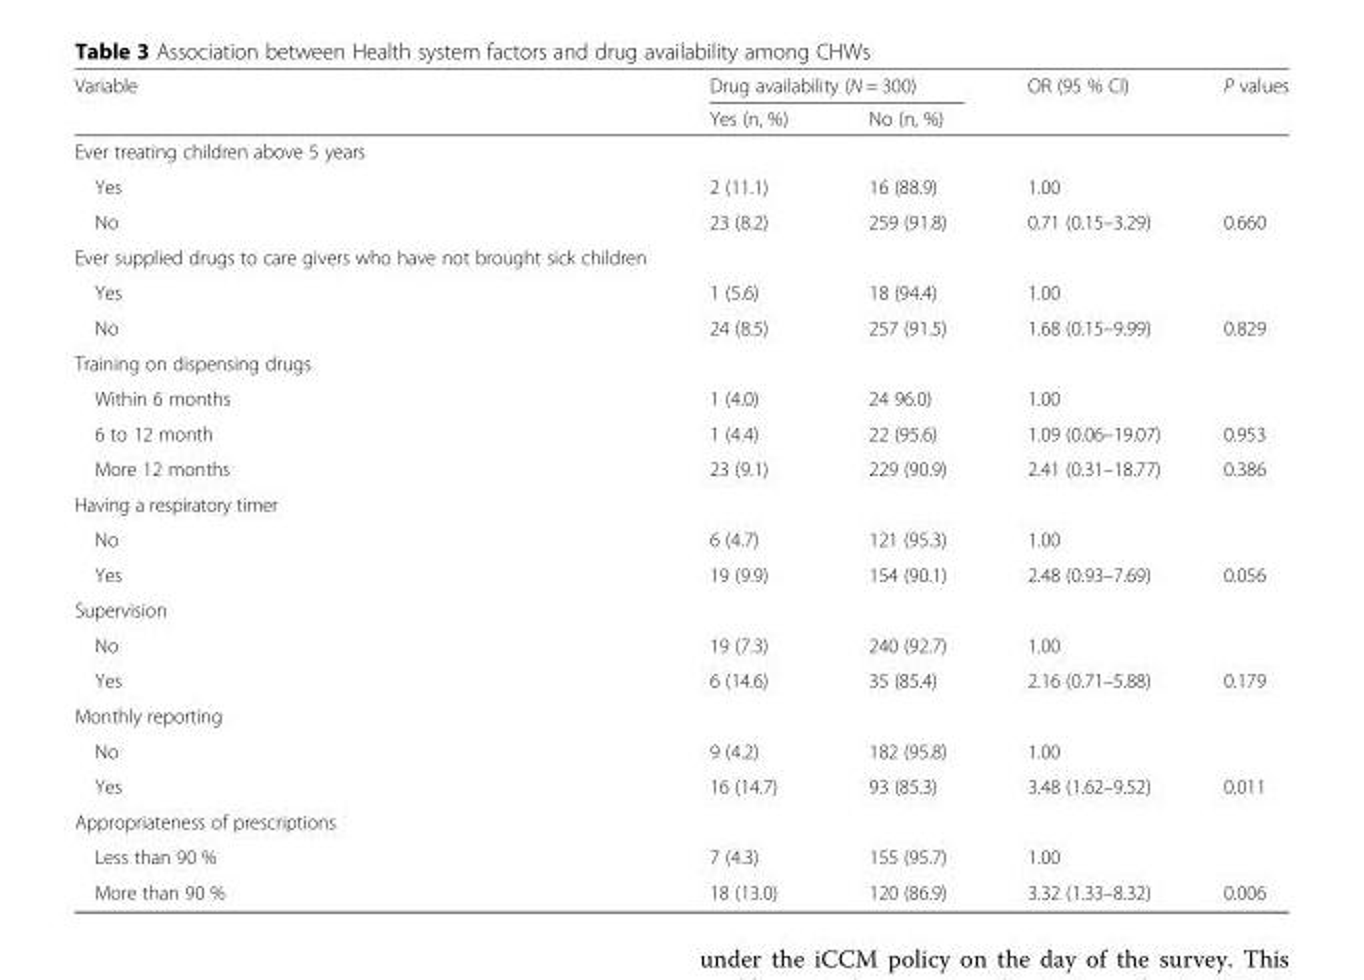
<table><thead><tr><td rowspan="2">Variable</td><td colspan="2">Drug availability (N = 300)</td><td rowspan="2">OR (95 % CI)</td><td rowspan="2">P values</td></tr><tr><td>Yes (n, %)</td><td>No (n, %)</td></tr></thead><tbody><tr><td colspan="5">Ever treating children above 5 years</td></tr><tr><td>Yes</td><td>2 (11.1)</td><td>16 (88.9)</td><td>1.00</td><td></td></tr><tr><td>No</td><td>23 (8.2)</td><td>259 (91.8)</td><td>0.71 (0.15–3.29)</td><td>0.660</td></tr><tr><td colspan="5">Ever supplied drugs to care givers who have not brought sick children</td></tr><tr><td>Yes</td><td>1 (5.6)</td><td>18 (94.4)</td><td>1.00</td><td></td></tr><tr><td>No</td><td>24 (8.5)</td><td>257 (91.5)</td><td>1.68 (0.15–9.99)</td><td>0.829</td></tr><tr><td colspan="5">Training on dispensing drugs</td></tr><tr><td>Within 6 months</td><td>1 (4.0)</td><td>24 96.0)</td><td>1.00</td><td></td></tr><tr><td>6 to 12 month</td><td>1 (4.4)</td><td>22 (95.6)</td><td>1.09 (0.06–19.07)</td><td>0.953</td></tr><tr><td>More 12 months</td><td>23 (9.1)</td><td>229 (90.9)</td><td>2.41 (0.31–18.77)</td><td>0.386</td></tr><tr><td colspan="5">Having a respiratory timer</td></tr><tr><td>No</td><td>6 (4.7)</td><td>121 (95.3)</td><td>1.00</td><td></td></tr><tr><td>Yes</td><td>19 (9.9)</td><td>154 (90.1)</td><td>2.48 (0.93–7.69)</td><td>0.056</td></tr><tr><td colspan="5">Supervision</td></tr><tr><td>No</td><td>19 (7.3)</td><td>240 (92.7)</td><td>1.00</td><td></td></tr><tr><td>Yes</td><td>6 (14.6)</td><td>35 (85.4)</td><td>2.16 (0.71–5.88)</td><td>0.179</td></tr><tr><td colspan="5">Monthly reporting</td></tr><tr><td>No</td><td>9 (4.2)</td><td>182 (95.8)</td><td>1.00</td><td></td></tr><tr><td>Yes</td><td>16 (14.7)</td><td>93 (85.3)</td><td>3.48 (1.62–9.52)</td><td>0.011</td></tr><tr><td colspan="5">Appropriateness of prescriptions</td></tr><tr><td>Less than 90 %</td><td>7 (4.3)</td><td>155 (95.7)</td><td>1.00</td><td></td></tr><tr><td>More than 90 %</td><td>18 (13.0)</td><td>120 (86.9)</td><td>3.32 (1.33–8.32)</td><td>0.006</td></tr></tbody></table>